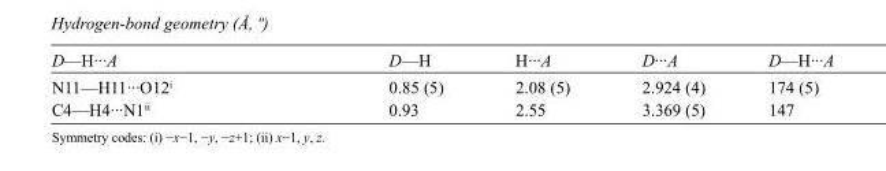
<table><tbody><tr><td>D—H···A</td><td>D—H</td><td>H···A</td><td>D···A</td><td>D—H···A</td></tr><tr><td>N11—H11···O12<sup>i</sup></td><td>0.85 (5)</td><td>2.08 (5)</td><td>2.924 (4)</td><td>174 (5)</td></tr><tr><td>C4—H4···N1<sup>ii</sup></td><td>0.93</td><td>2.55</td><td>3.369 (5)</td><td>147</td></tr></tbody></table>